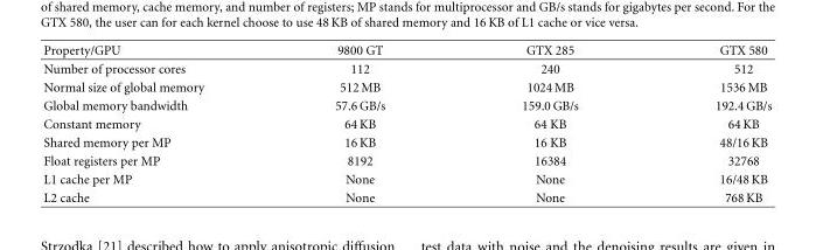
<table><thead><tr><td>Property/GPU</td><td>9800 GT</td><td>GTX 285</td><td>GTX 580</td></tr></thead><tbody><tr><td>Number of processor cores</td><td>112</td><td>240</td><td>512</td></tr><tr><td>Normal size of global memory</td><td>512 MB</td><td>1024 MB</td><td>1536 MB</td></tr><tr><td>Global memory bandwidth</td><td>57.6 GB/s</td><td>159.0 GB/s</td><td>192.4 GB/s</td></tr><tr><td>Constant memory</td><td>64 KB</td><td>64 KB</td><td>64 KB</td></tr><tr><td>Shared memory per MP</td><td>16 KB</td><td>16 KB</td><td>48/16 KB</td></tr><tr><td>Float registers per MP</td><td>8192</td><td>16384</td><td>32768</td></tr><tr><td>L1 cache per MP</td><td>None</td><td>None</td><td>16/48 KB</td></tr><tr><td>L2 cache</td><td>None</td><td>None</td><td>768 KB</td></tr></tbody></table>